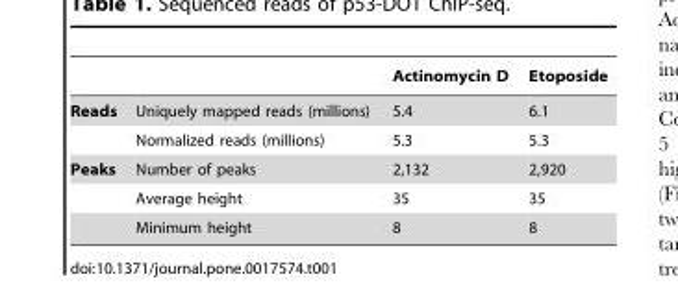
<table><thead><tr><td></td><td></td><td>Actinomycin D</td><td>Etoposide</td></tr></thead><tbody><tr><td rowspan="2">Reads</td><td>Uniquely mapped reads (millions)</td><td>5.4</td><td>6.1</td></tr><tr><td>Normalized reads (millions)</td><td>5.3</td><td>5.3</td></tr><tr><td rowspan="3">Peaks</td><td>Number of peaks</td><td>2,132</td><td>2,920</td></tr><tr><td>Average height</td><td>35</td><td>35</td></tr><tr><td>Minimum height</td><td>8</td><td>8</td></tr></tbody></table>